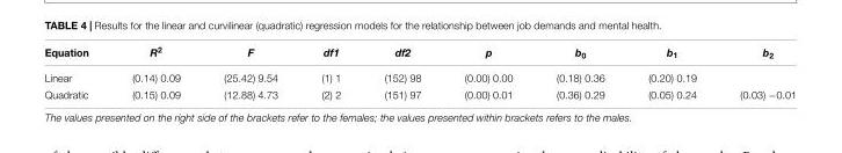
<table><thead><tr><td>Equation</td><td>R<sup>2</sup></td><td>F</td><td>df1</td><td>df2</td><td>p</td><td>b<sub>0</sub></td><td>b<sub>1</sub></td><td>b<sub>2</sub></td></tr></thead><tbody><tr><td>Linear</td><td>(0.14) 0.09</td><td>(25.42) 9.54</td><td>(1) 1</td><td>(152) 98</td><td>(0.00) 0.00</td><td>(0.18) 0.36</td><td>(0.20) 0.19</td><td></td></tr><tr><td>Quadratic</td><td>(0.15) 0.09</td><td>(12.88) 4.73</td><td>(2) 2</td><td>(151) 97</td><td>(0.00) 0.01</td><td>(0.36) 0.29</td><td>(0.05) 0.24</td><td>(0.03) −0.01</td></tr></tbody></table>